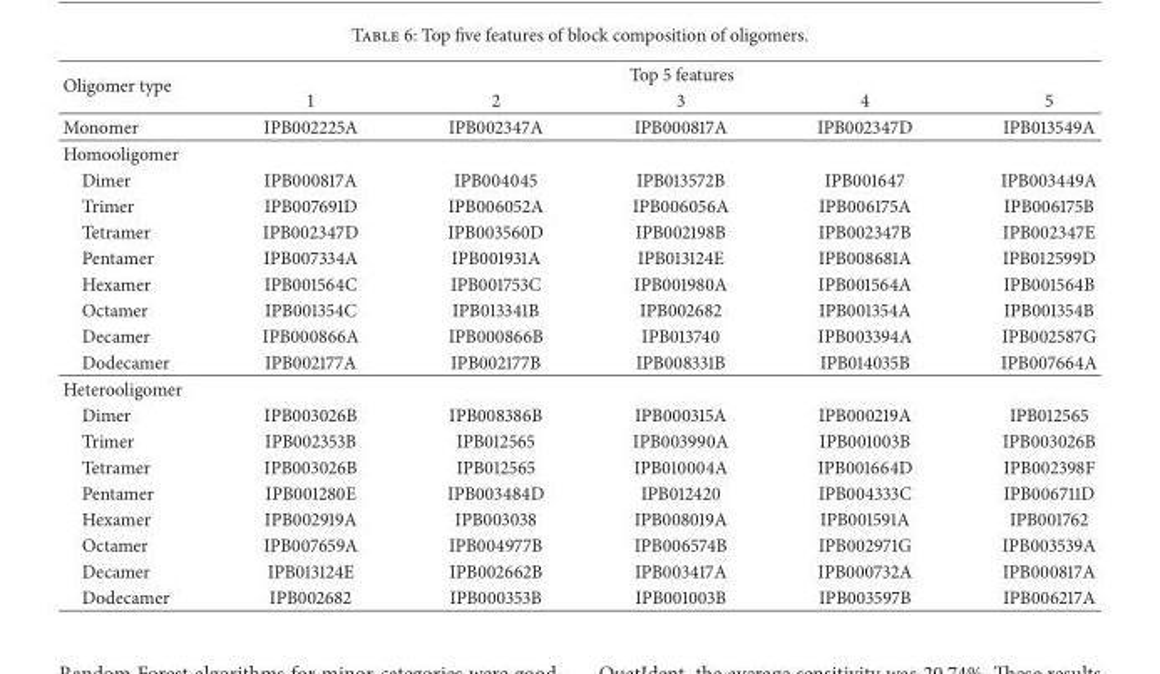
<table><thead><tr><td rowspan="2">Oligomer type</td><td colspan="5">Top 5 features</td></tr><tr><td>1</td><td>2</td><td>3</td><td>4</td><td>5</td></tr></thead><tbody><tr><td>Monomer</td><td>IPB002225A</td><td>IPB002347A</td><td>IPB000817A</td><td>IPB002347D</td><td>IPB013549A</td></tr><tr><td colspan="6">Homooligomer</td></tr><tr><td>Dimer</td><td>IPB000817A</td><td>IPB004045</td><td>IPB013572B</td><td>IPB001647</td><td>IPB003449A</td></tr><tr><td>Trimer</td><td>IPB007691D</td><td>IPB006052A</td><td>IPB006056A</td><td>IPB006175A</td><td>IPB006175B</td></tr><tr><td>Tetramer</td><td>IPB002347D</td><td>IPB003560D</td><td>IPB002198B</td><td>IPB002347B</td><td>IPB002347E</td></tr><tr><td>Pentamer</td><td>IPB007334A</td><td>IPB001931A</td><td>IPB013124E</td><td>IPB008681A</td><td>IPB012599D</td></tr><tr><td>Hexamer</td><td>IPB001564C</td><td>IPB001753C</td><td>IPB001980A</td><td>IPB001564A</td><td>IPB001564B</td></tr><tr><td>Octamer</td><td>IPB001354C</td><td>IPB013341B</td><td>IPB002682</td><td>IPB001354A</td><td>IPB001354B</td></tr><tr><td>Decamer</td><td>IPB000866A</td><td>IPB000866B</td><td>IPB013740</td><td>IPB003394A</td><td>IPB002587G</td></tr><tr><td>Dodecamer</td><td>IPB002177A</td><td>IPB002177B</td><td>IPB008331B</td><td>IPB014035B</td><td>IPB007664A</td></tr><tr><td colspan="6">Heterooligomer</td></tr><tr><td>Dimer</td><td>IPB003026B</td><td>IPB008386B</td><td>IPB000315A</td><td>IPB000219A</td><td>IPB012565</td></tr><tr><td>Trimer</td><td>IPB002353B</td><td>IPB012565</td><td>IPB003990A</td><td>IPB001003B</td><td>IPB003026B</td></tr><tr><td>Tetramer</td><td>IPB003026B</td><td>IPB012565</td><td>IPB010004A</td><td>IPB001664D</td><td>IPB002398F</td></tr><tr><td>Pentamer</td><td>IPB001280E</td><td>IPB003484D</td><td>IPB012420</td><td>IPB004333C</td><td>IPB006711D</td></tr><tr><td>Hexamer</td><td>IPB002919A</td><td>IPB003038</td><td>IPB008019A</td><td>IPB001591A</td><td>IPB001762</td></tr><tr><td>Octamer</td><td>IPB007659A</td><td>IPB004977B</td><td>IPB006574B</td><td>IPB002971G</td><td>IPB003539A</td></tr><tr><td>Decamer</td><td>IPB013124E</td><td>IPB002662B</td><td>IPB003417A</td><td>IPB000732A</td><td>IPB000817A</td></tr><tr><td>Dodecamer</td><td>IPB002682</td><td>IPB000353B</td><td>IPB001003B</td><td>IPB003597B</td><td>IPB006217A</td></tr></tbody></table>